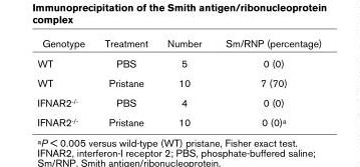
<table><thead><tr><td>Genotype</td><td>Treatment</td><td>Number</td><td>Sm/RNP (percentage)</td></tr></thead><tbody><tr><td>WT</td><td>PBS</td><td>5</td><td>0 (0)</td></tr><tr><td>WT</td><td>Pristane</td><td>10</td><td>7 (70)</td></tr><tr><td>IFNAR2<sup>-/-</sup></td><td>PBS</td><td>4</td><td>0 (0)</td></tr><tr><td>IFNAR2<sup>-/-</sup></td><td>Pristane</td><td>10</td><td>0 (0)<sup>a</sup></td></tr></tbody></table>